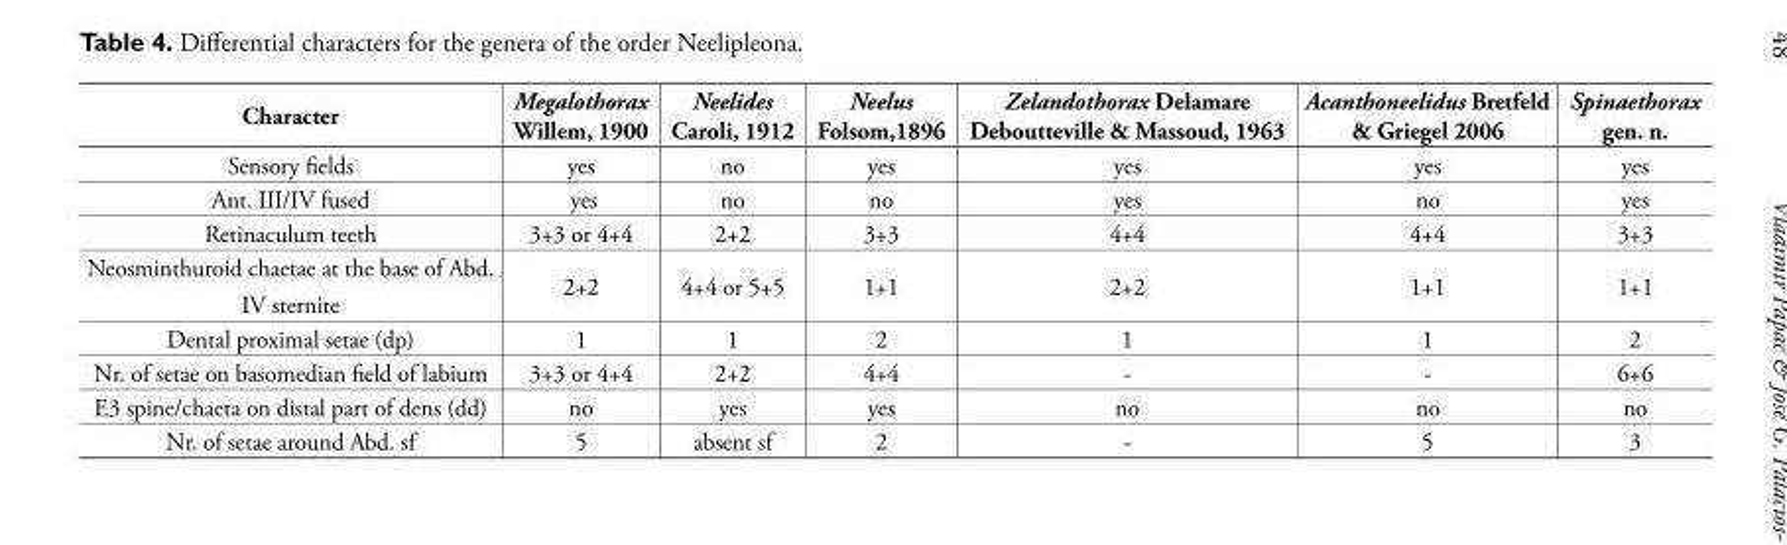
<table><thead><tr><td>Character</td><td>Megalothorax Willem, 1900</td><td>Neelides Caroli, 1912</td><td>Neelus Folsom,1896</td><td>Zelandothorax Delamare Deboutteville &amp; Massoud, 1963</td><td>Acanthoneelidus Bretfeld &amp; Griegel 2006</td><td>Spinaethorax gen. n.</td></tr></thead><tbody><tr><td>Sensory fields</td><td>yes</td><td>no</td><td>yes</td><td>yes</td><td>yes</td><td>yes</td></tr><tr><td>Ant. III/IV fused</td><td>yes</td><td>no</td><td>no</td><td>yes</td><td>no</td><td>yes</td></tr><tr><td>Retinaculum teeth</td><td>3+3 or 4+4</td><td>2+2</td><td>3+3</td><td>4+4</td><td>4+4</td><td>3+3</td></tr><tr><td>Neosminthuroid chaetae at the base of Abd. IV sternite</td><td>2+2</td><td>4+4 or 5+5</td><td>1+1</td><td>2+2</td><td>1+1</td><td>1+1</td></tr><tr><td>Dental proximal setae (dp)</td><td>1</td><td>1</td><td>2</td><td>1</td><td>1</td><td>2</td></tr><tr><td>Nr. of setae on basomedian field of labium</td><td>3+3 or 4+4</td><td>2+2</td><td>4+4</td><td>-</td><td>-</td><td>6+6</td></tr><tr><td>E3 spine/chaeta on distal part of dens (dd)</td><td>no</td><td>yes</td><td>yes</td><td>no</td><td>no</td><td>no</td></tr><tr><td>Nr. of setae around Abd. sf</td><td>5</td><td>absent sf</td><td>2</td><td>-</td><td>5</td><td>3</td></tr></tbody></table>